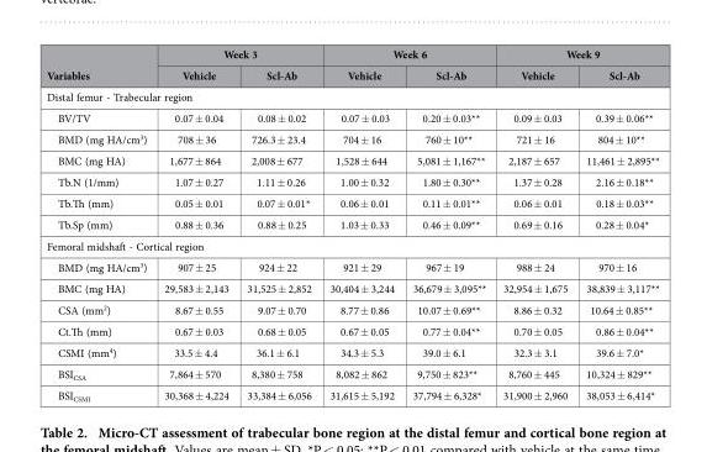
<table><thead><tr><td rowspan="2">Variables</td><td colspan="2">Week 3</td><td colspan="2">Week 6</td><td colspan="2">Week 9</td></tr><tr><td>Vehicle</td><td>Scl-Ab</td><td>Vehicle</td><td>Scl-Ab</td><td>Vehicle</td><td>Scl-Ab</td></tr></thead><tbody><tr><td colspan="7">Distal femur - Trabecular region</td></tr><tr><td>BV/TV</td><td>0.07 ± 0.04</td><td>0.08 ± 0.02</td><td>0.07 ± 0.03</td><td>0.20 ± 0.03**</td><td>0.09 ± 0.03</td><td>0.39 ± 0.06**</td></tr><tr><td>BMD (mg HA/cm<sup>3</sup>)</td><td>708 ± 36</td><td>726.3 ± 23.4</td><td>704 ± 16</td><td>760 ± 10**</td><td>721 ± 16</td><td>804 ± 10**</td></tr><tr><td>BMC (mg HA)</td><td>1,677 ± 864</td><td>2,008 ± 677</td><td>1,528 ± 644</td><td>5,081 ± 1,167**</td><td>2,187 ± 657</td><td>11,461 ± 2,895**</td></tr><tr><td>Tb.N (1/mm)</td><td>1.07 ± 0.27</td><td>1.11 ± 0.26</td><td>1.00 ± 0.32</td><td>1.80 ± 0.30**</td><td>1.37 ± 0.28</td><td>2.16 ± 0.18**</td></tr><tr><td>Tb.Th (mm)</td><td>0.05 ± 0.01</td><td>0.07 ± 0.01*</td><td>0.06 ± 0.01</td><td>0.11 ± 0.01**</td><td>0.06 ± 0.01</td><td>0.18 ± 0.03**</td></tr><tr><td>Tb.Sp (mm)</td><td>0.88 ± 0.36</td><td>0.88 ± 0.25</td><td>1.03 ± 0.33</td><td>0.46 ± 0.09**</td><td>0.69 ± 0.16</td><td>0.28 ± 0.04*</td></tr><tr><td colspan="7">Femoral midshaft - Cortical region</td></tr><tr><td>BMD (mg HA/cm<sup>3</sup>)</td><td>907 ± 25</td><td>924 ± 22</td><td>921 ± 29</td><td>967 ± 19</td><td>988 ± 24</td><td>970 ± 16</td></tr><tr><td>BMC (mg HA)</td><td>29,583 ± 2,143</td><td>31,525 ± 2,852</td><td>30,404 ± 3,244</td><td>36,679 ± 3,095**</td><td>32,954 ± 1,675</td><td>38,839 ± 3,117**</td></tr><tr><td>CSA (mm<sup>2</sup>)</td><td>8.67 ± 0.55</td><td>9.07 ± 0.70</td><td>8.77 ± 0.86</td><td>10.07 ± 0.69**</td><td>8.86 ± 0.32</td><td>10.64 ± 0.85**</td></tr><tr><td>Ct.Th (mm)</td><td>0.67 ± 0.03</td><td>0.68 ± 0.05</td><td>0.67 ± 0.05</td><td>0.77 ± 0.04**</td><td>0.70 ± 0.05</td><td>0.86 ± 0.04**</td></tr><tr><td>CSMI (mm<sup>4</sup>)</td><td>33.5 ± 4.4</td><td>36.1 ± 6.1</td><td>34.3 ± 5.3</td><td>39.0 ± 6.1</td><td>32.3 ± 3.1</td><td>39.6 ± 7.0*</td></tr><tr><td>BSI<sub>CSA</sub></td><td>7,864 ± 570</td><td>8,380 ± 758</td><td>8,082 ± 862</td><td>9,750 ± 823**</td><td>8,760 ± 445</td><td>10,324 ± 829**</td></tr><tr><td>BSI<sub>CSMI</sub></td><td>30,368 ± 4,224</td><td>33,384 ± 6,056</td><td>31,615 ± 5,192</td><td>37,794 ± 6,328*</td><td>31,900 ± 2,960</td><td>38,053 ± 6,414*</td></tr></tbody></table>